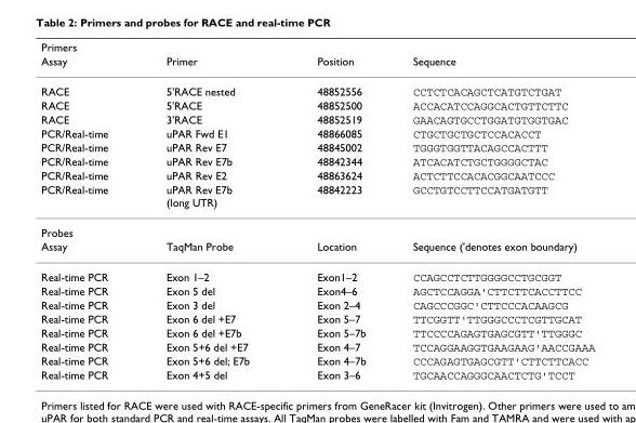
<table><thead><tr><td rowspan="2">Primers Assay</td><td rowspan="2">Primer</td><td rowspan="2">Position</td><td rowspan="2">Sequence</td></tr><tr></tr></thead><tbody><tr><td>RACE</td><td>5&#x27;RACE nested</td><td>48852556</td><td>CCTCTCACAGCTCATGTCTGAT</td></tr><tr><td>RACE</td><td>5&#x27;RACE</td><td>48852500</td><td>ACCACATCCAGGCACTGTTCTTC</td></tr><tr><td>RACE</td><td>3&#x27;RACE</td><td>48852519</td><td>GAACAGTGCCTGGATGTGGTGAC</td></tr><tr><td>PCR/Real-time</td><td>uPAR Fwd E1</td><td>48866085</td><td>CTGCTGCTGCTCCACACCT</td></tr><tr><td>PCR/Real-time</td><td>uPAR Rev E7</td><td>48845002</td><td>TGGGTGGTTACAGCCACTTT</td></tr><tr><td>PCR/Real-time</td><td>uPAR Rev E7b</td><td>48842344</td><td>ATCACATCTGCTGGGGCTAC</td></tr><tr><td>PCR/Real-time</td><td>uPAR Rev E2</td><td>48863624</td><td>ACTCTTCCACACGGCAATCCC</td></tr><tr><td>PCR/Real-time</td><td>uPAR Rev E7b (long UTR)</td><td>48842223</td><td>GCCTGTCCTTCCATGATGTT</td></tr><tr><td colspan="4">Probes</td></tr><tr><td>Assay</td><td>TaqMan Probe</td><td>Location</td><td>Sequence (&#x27;denotes exon boundary)</td></tr><tr><td>Real-time PCR</td><td>Exon 1–2</td><td>Exon1–2</td><td>CCAGCCTCTTGGGGCCTGCGGT</td></tr><tr><td>Real-time PCR</td><td>Exon 5 del</td><td>Exon4–6</td><td>AGCTCCAGGA&#x27;CTTCTTCACCTTCC</td></tr><tr><td>Real-time PCR</td><td>Exon 3 del</td><td>Exon 2–4</td><td>CAGCCCGGC&#x27;CTTCCCACAAGCG</td></tr><tr><td>Real-time PCR</td><td>Exon 6 del +E7</td><td>Exon 5–7</td><td>TTCGGTT&#x27;TTGGGCCCTCGTTGCAT</td></tr><tr><td>Real-time PCR</td><td>Exon 6 del +E7b</td><td>Exon 5–7b</td><td>TTCCCCAGAGTGAGCGTT&#x27;TTGGGC</td></tr><tr><td>Real-time PCR</td><td>Exon 5+6 del +E7</td><td>Exon 4–7</td><td>TCCAGGAAGGTGAAGAAG&#x27;AACCGAAA</td></tr><tr><td>Real-time PCR</td><td>Exon 5+6 del; E7b</td><td>Exon 4–7b</td><td>CCCAGAGTGAGCGTT&#x27;CTTCTTCACC</td></tr><tr><td>Real-time PCR</td><td>Exon 4+5 del</td><td>Exon 3–6</td><td>TGCAACCAGGGCAACTCTG&#x27;TCCT</td></tr></tbody></table>